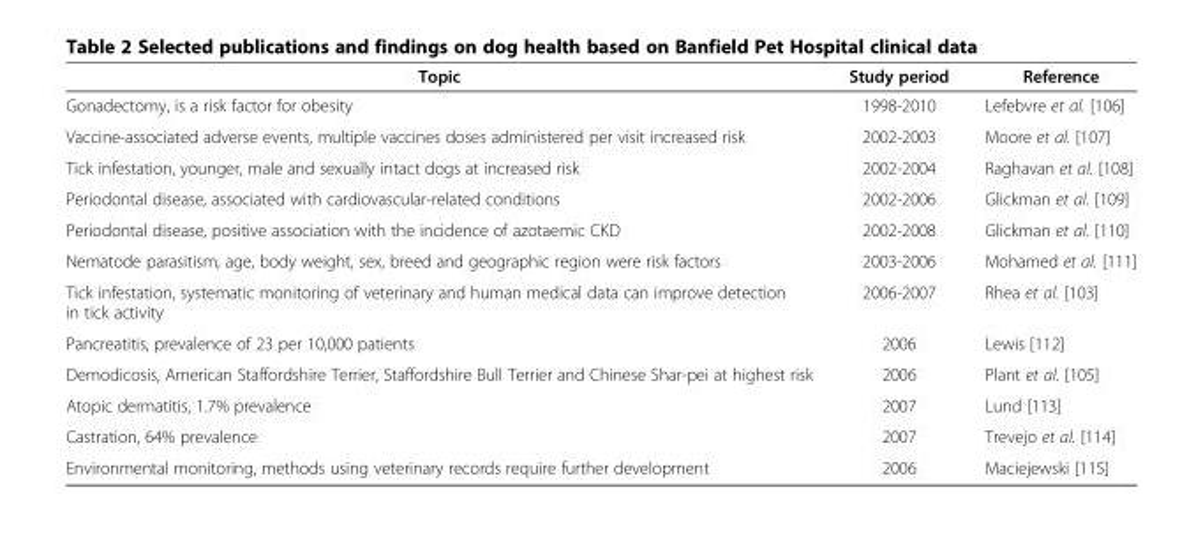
<table><thead><tr><td>Topic</td><td>Study period</td><td>Reference</td></tr></thead><tbody><tr><td>Gonadectomy, is a risk factor for obesity</td><td>1998-2010</td><td>Lefebvre et al. [106]</td></tr><tr><td>Vaccine-associated adverse events, multiple vaccines doses administered per visit increased risk</td><td>2002-2003</td><td>Moore et al. [107]</td></tr><tr><td>Tick infestation, younger, male and sexually intact dogs at increased risk</td><td>2002-2004</td><td>Raghavan et al. [108]</td></tr><tr><td>Periodontal disease, associated with cardiovascular-related conditions</td><td>2002-2006</td><td>Glickman et al. [109]</td></tr><tr><td>Periodontal disease, positive association with the incidence of azotaemic CKD</td><td>2002-2008</td><td>Glickman et al. [110]</td></tr><tr><td>Nematode parasitism, age, body weight, sex, breed and geographic region were risk factors</td><td>2003-2006</td><td>Mohamed et al. [111]</td></tr><tr><td>Tick infestation, systematic monitoring of veterinary and human medical data can improve detection in tick activity</td><td>2006-2007</td><td>Rhea et al. [103]</td></tr><tr><td>Pancreatitis, prevalence of 23 per 10,000 patients</td><td>2006</td><td>Lewis [112]</td></tr><tr><td>Demodicosis, American Staffordshire Terrier, Staffordshire Bull Terrier and Chinese Shar-pei at highest risk</td><td>2006</td><td>Plant et al. [105]</td></tr><tr><td>Atopic dermatitis, 1.7% prevalence</td><td>2007</td><td>Lund [113]</td></tr><tr><td>Castration, 64% prevalence</td><td>2007</td><td>Trevejo et al. [114]</td></tr><tr><td>Environmental monitoring, methods using veterinary records require further development</td><td>2006</td><td>Maciejewski [115]</td></tr></tbody></table>